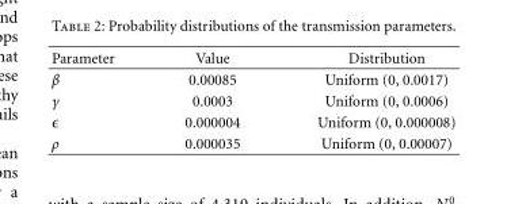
<table><thead><tr><td>Parameter</td><td>Value</td><td>Distribution</td></tr></thead><tbody><tr><td>β</td><td>0.00085</td><td>Uniform (0, 0.0017)</td></tr><tr><td>γ</td><td>0.0003</td><td>Uniform (0, 0.0006)</td></tr><tr><td>ϵ</td><td>0.000004</td><td>Uniform (0, 0.000008)</td></tr><tr><td>ρ</td><td>0.000035</td><td>Uniform (0, 0.00007)</td></tr></tbody></table>